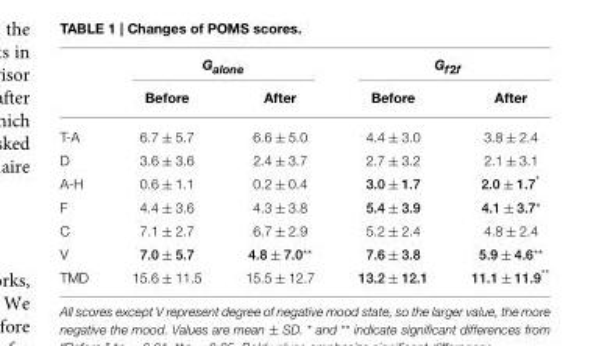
<table><thead><tr><td rowspan="2"></td><td colspan="2">Galone</td><td colspan="2">Gf2f</td></tr><tr><td>Before</td><td>After</td><td>Before</td><td>After</td></tr></thead><tbody><tr><td>T-A</td><td>6.7 ± 5.7</td><td>6.6 ± 5.0</td><td>4.4 ± 3.0</td><td>3.8 ± 2.4</td></tr><tr><td>D</td><td>3.6 ± 3.6</td><td>2.4 ± 3.7</td><td>2.7 ± 3.2</td><td>2.1 ± 3.1</td></tr><tr><td>A-H</td><td>0.6 ± 1.1</td><td>0.2 ± 0.4</td><td>3.0 ± 1.7</td><td>2.0 ± 1.7*</td></tr><tr><td>F</td><td>4.4 ± 3.6</td><td>4.3 ± 3.8</td><td>5.4 ± 3.9</td><td>4.1 ± 3.7*</td></tr><tr><td>C</td><td>7.1 ± 2.7</td><td>6.7 ± 2.9</td><td>5.2 ± 2.4</td><td>4.8 ± 2.4</td></tr><tr><td>V</td><td>7.0 ± 5.7</td><td>4.8 ± 7.0**</td><td>7.6 ± 3.8</td><td>5.9 ± 4.6**</td></tr><tr><td>TMD</td><td>15.6 ± 11.5</td><td>15.5 ± 12.7</td><td>13.2 ± 12.1</td><td>11.1 ± 11.9**</td></tr></tbody></table>